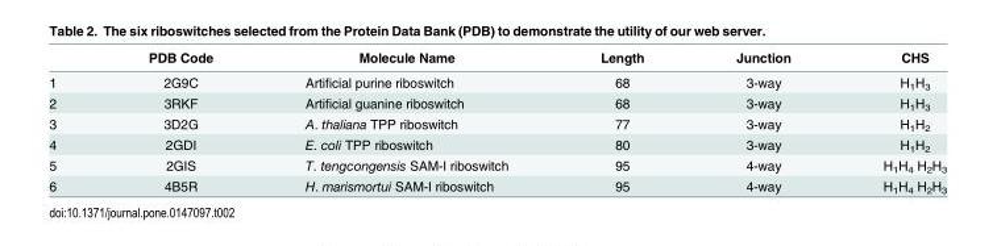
<table><thead><tr><td></td><td>PDB Code</td><td>Molecule Name</td><td>Length</td><td>Junction</td><td>CHS</td></tr></thead><tbody><tr><td>1</td><td>2G9C</td><td>Artificial purine riboswitch</td><td>68</td><td>3-way</td><td>H<sub>1</sub>H<sub>3</sub></td></tr><tr><td>2</td><td>3RKF</td><td>Artificial guanine riboswitch</td><td>68</td><td>3-way</td><td>H<sub>1</sub>H<sub>3</sub></td></tr><tr><td>3</td><td>3D2G</td><td>A. thaliana TPP riboswitch</td><td>77</td><td>3-way</td><td>H<sub>1</sub>H<sub>2</sub></td></tr><tr><td>4</td><td>2GDI</td><td>E. coli TPP riboswitch</td><td>80</td><td>3-way</td><td>H<sub>1</sub>H<sub>2</sub></td></tr><tr><td>5</td><td>2GIS</td><td>T. tengcongensis SAM-I riboswitch</td><td>95</td><td>4-way</td><td>H<sub>1</sub>H<sub>4</sub> H<sub>2</sub>H<sub>3</sub></td></tr><tr><td>6</td><td>4B5R</td><td>H. marismortui SAM-I riboswitch</td><td>95</td><td>4-way</td><td>H<sub>1</sub>H<sub>4</sub> H<sub>2</sub>H<sub>3</sub></td></tr></tbody></table>